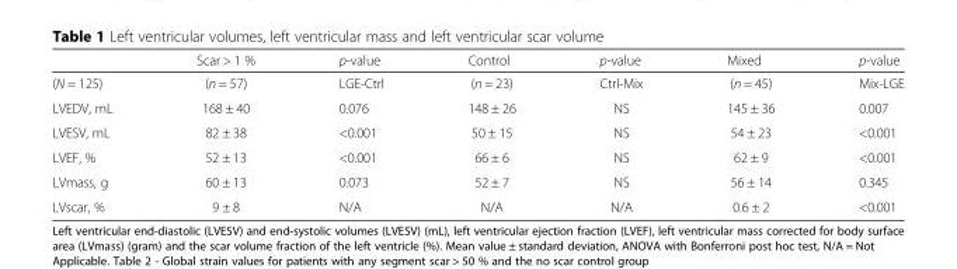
<table><thead><tr><td></td><td>Scar &gt; 1 %</td><td>p-value</td><td>Control</td><td>p-value</td><td>Mixed</td><td>p-value</td></tr></thead><tbody><tr><td>(N = 125)</td><td>(n = 57)</td><td>LGE-Ctrl</td><td>(n = 23)</td><td>Ctrl-Mix</td><td>(n = 45)</td><td>Mix-LGE</td></tr><tr><td>LVEDV, mL</td><td>168 ± 40</td><td>0.076</td><td>148 ± 26</td><td>NS</td><td>145 ± 36</td><td>0.007</td></tr><tr><td>LVESV, mL</td><td>82 ± 38</td><td>&lt;0.001</td><td>50 ± 15</td><td>NS</td><td>54 ± 23</td><td>&lt;0.001</td></tr><tr><td>LVEF, %</td><td>52 ± 13</td><td>&lt;0.001</td><td>66 ± 6</td><td>NS</td><td>62 ± 9</td><td>&lt;0.001</td></tr><tr><td>LVmass, g</td><td>60 ± 13</td><td>0.073</td><td>52 ± 7</td><td>NS</td><td>56 ± 14</td><td>0.345</td></tr><tr><td>LVscar, %</td><td>9 ± 8</td><td>N/A</td><td>N/A</td><td>N/A</td><td>0.6 ± 2</td><td>&lt;0.001</td></tr></tbody></table>